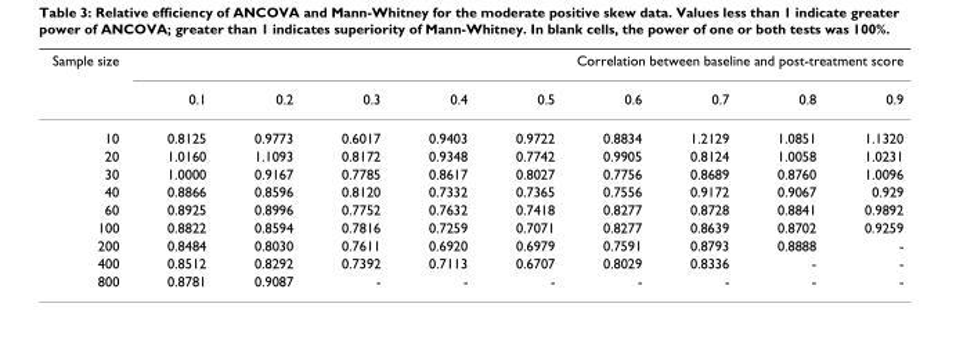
<table><thead><tr><td rowspan="2">Sample size</td><td colspan="9">Correlation between baseline and post-treatment score</td></tr><tr><td>0.1</td><td>0.2</td><td>0.3</td><td>0.4</td><td>0.5</td><td>0.6</td><td>0.7</td><td>0.8</td><td>0.9</td></tr></thead><tbody><tr><td>10</td><td>0.8125</td><td>0.9773</td><td>0.6017</td><td>0.9403</td><td>0.9722</td><td>0.8834</td><td>1.2129</td><td>1.0851</td><td>1.1320</td></tr><tr><td>20</td><td>1.0160</td><td>1.1093</td><td>0.8172</td><td>0.9348</td><td>0.7742</td><td>0.9905</td><td>0.8124</td><td>1.0058</td><td>1.0231</td></tr><tr><td>30</td><td>1.0000</td><td>0.9167</td><td>0.7785</td><td>0.8617</td><td>0.8027</td><td>0.7756</td><td>0.8689</td><td>0.8760</td><td>1.0096</td></tr><tr><td>40</td><td>0.8866</td><td>0.8596</td><td>0.8120</td><td>0.7332</td><td>0.7365</td><td>0.7556</td><td>0.9172</td><td>0.9067</td><td>0.929</td></tr><tr><td>60</td><td>0.8925</td><td>0.8996</td><td>0.7752</td><td>0.7632</td><td>0.7418</td><td>0.8277</td><td>0.8728</td><td>0.8841</td><td>0.9892</td></tr><tr><td>100</td><td>0.8822</td><td>0.8594</td><td>0.7816</td><td>0.7259</td><td>0.7071</td><td>0.8277</td><td>0.8639</td><td>0.8702</td><td>0.9259</td></tr><tr><td>200</td><td>0.8484</td><td>0.8030</td><td>0.7611</td><td>0.6920</td><td>0.6979</td><td>0.7591</td><td>0.8793</td><td>0.8888</td><td>-</td></tr><tr><td>400</td><td>0.8512</td><td>0.8292</td><td>0.7392</td><td>0.7113</td><td>0.6707</td><td>0.8029</td><td>0.8336</td><td>-</td><td>-</td></tr><tr><td>800</td><td>0.8781</td><td>0.9087</td><td>-</td><td>-</td><td>-</td><td>-</td><td>-</td><td>-</td><td>-</td></tr></tbody></table>